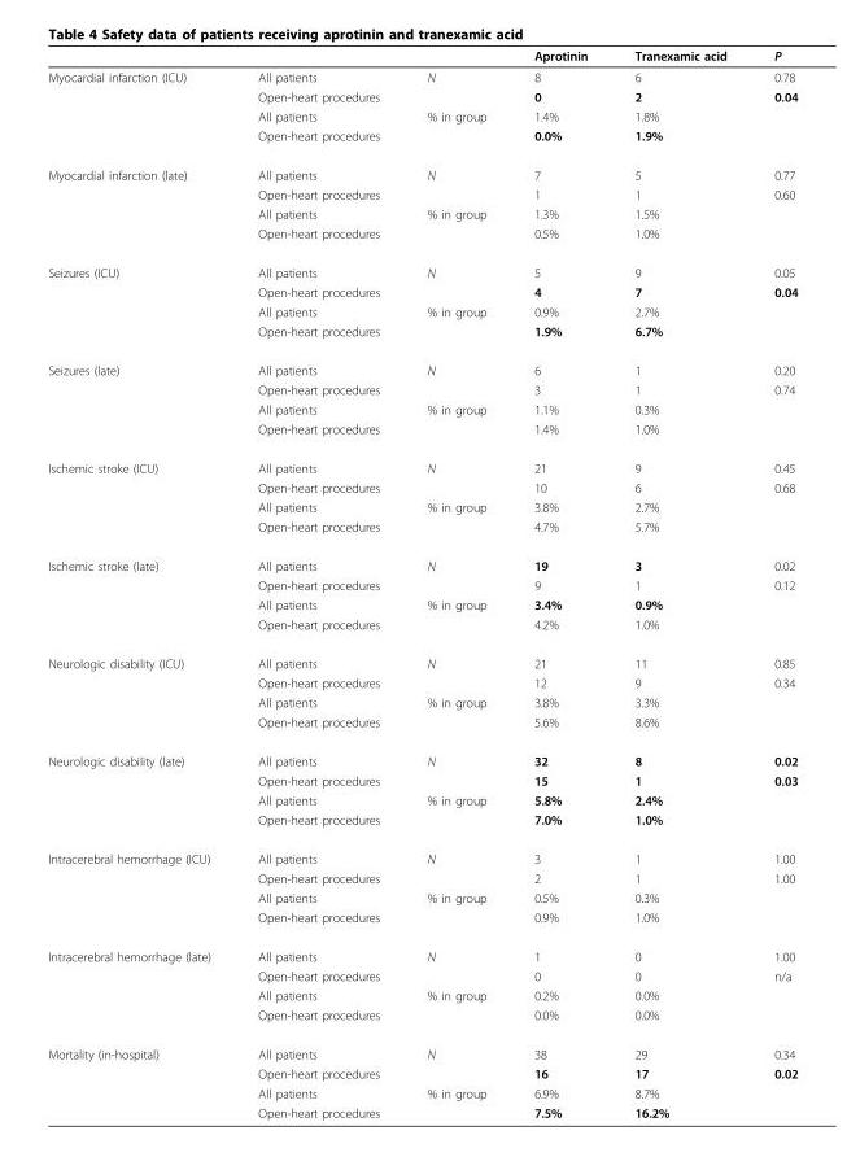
<table><thead><tr><td></td><td></td><td></td><td>Aprotinin</td><td>Tranexamic acid</td><td>P</td></tr></thead><tbody><tr><td rowspan="4">Myocardial infarction (ICU)</td><td>All patients</td><td>N</td><td>8</td><td>6</td><td>0.78</td></tr><tr><td>Open-heart procedures</td><td></td><td>0</td><td>2</td><td>0.04</td></tr><tr><td>All patients</td><td>% in group</td><td>1.4%</td><td>1.8%</td><td></td></tr><tr><td>Open-heart procedures</td><td></td><td>0.0%</td><td>1.9%</td><td></td></tr><tr><td rowspan="4">Myocardial infarction (late)</td><td>All patients</td><td>N</td><td>7</td><td>5</td><td>0.77</td></tr><tr><td>Open-heart procedures</td><td></td><td>1</td><td>1</td><td>0.60</td></tr><tr><td>All patients</td><td>% in group</td><td>1.3%</td><td>1.5%</td><td></td></tr><tr><td>Open-heart procedures</td><td></td><td>0.5%</td><td>1.0%</td><td></td></tr><tr><td rowspan="4">Seizures (ICU)</td><td>All patients</td><td>N</td><td>5</td><td>9</td><td>0.05</td></tr><tr><td>Open-heart procedures</td><td></td><td>4</td><td>7</td><td>0.04</td></tr><tr><td>All patients</td><td>% in group</td><td>0.9%</td><td>2.7%</td><td></td></tr><tr><td>Open-heart procedures</td><td></td><td>1.9%</td><td>6.7%</td><td></td></tr><tr><td rowspan="4">Seizures (late)</td><td>All patients</td><td>N</td><td>6</td><td>1</td><td>0.20</td></tr><tr><td>Open-heart procedures</td><td></td><td>3</td><td>1</td><td>0.74</td></tr><tr><td>All patients</td><td>% in group</td><td>1.1%</td><td>0.3%</td><td></td></tr><tr><td>Open-heart procedures</td><td></td><td>1.4%</td><td>1.0%</td><td></td></tr><tr><td rowspan="4">Ischemic stroke (ICU)</td><td>All patients</td><td>N</td><td>21</td><td>9</td><td>0.45</td></tr><tr><td>Open-heart procedures</td><td></td><td>10</td><td>6</td><td>0.68</td></tr><tr><td>All patients</td><td>% in group</td><td>3.8%</td><td>2.7%</td><td></td></tr><tr><td>Open-heart procedures</td><td></td><td>4.7%</td><td>5.7%</td><td></td></tr><tr><td rowspan="4">Ischemic stroke (late)</td><td>All patients</td><td>N</td><td>19</td><td>3</td><td>0.02</td></tr><tr><td>Open-heart procedures</td><td></td><td>9</td><td>1</td><td>0.12</td></tr><tr><td>All patients</td><td>% in group</td><td>3.4%</td><td>0.9%</td><td></td></tr><tr><td>Open-heart procedures</td><td></td><td>4.2%</td><td>1.0%</td><td></td></tr><tr><td rowspan="4">Neurologic disability (ICU)</td><td>All patients</td><td>N</td><td>21</td><td>11</td><td>0.85</td></tr><tr><td>Open-heart procedures</td><td></td><td>12</td><td>9</td><td>0.34</td></tr><tr><td>All patients</td><td>% in group</td><td>3.8%</td><td>3.3%</td><td></td></tr><tr><td>Open-heart procedures</td><td></td><td>5.6%</td><td>8.6%</td><td></td></tr><tr><td rowspan="4">Neurologic disability (late)</td><td>All patients</td><td>N</td><td>32</td><td>8</td><td>0.02</td></tr><tr><td>Open-heart procedures</td><td></td><td>15</td><td>1</td><td>0.03</td></tr><tr><td>All patients</td><td>% in group</td><td>5.8%</td><td>2.4%</td><td></td></tr><tr><td>Open-heart procedures</td><td></td><td>7.0%</td><td>1.0%</td><td></td></tr><tr><td rowspan="4">Intracerebral hemorrhage (ICU)</td><td>All patients</td><td>N</td><td>3</td><td>1</td><td>1.00</td></tr><tr><td>Open-heart procedures</td><td></td><td>2</td><td>1</td><td>1.00</td></tr><tr><td>All patients</td><td>% in group</td><td>0.5%</td><td>0.3%</td><td></td></tr><tr><td>Open-heart procedures</td><td></td><td>0.9%</td><td>1.0%</td><td></td></tr><tr><td rowspan="4">Intracerebral hemorrhage (late)</td><td>All patients</td><td>N</td><td>1</td><td>0</td><td>1.00</td></tr><tr><td>Open-heart procedures</td><td></td><td>0</td><td>0</td><td>n/a</td></tr><tr><td>All patients</td><td>% in group</td><td>0.2%</td><td>0.0%</td><td></td></tr><tr><td>Open-heart procedures</td><td></td><td>0.0%</td><td>0.0%</td><td></td></tr><tr><td rowspan="4">Mortality (in-hospital)</td><td>All patients</td><td>N</td><td>38</td><td>29</td><td>0.34</td></tr><tr><td>Open-heart procedures</td><td></td><td>16</td><td>17</td><td>0.02</td></tr><tr><td>All patients</td><td>% in group</td><td>6.9%</td><td>8.7%</td><td></td></tr><tr><td>Open-heart procedures</td><td></td><td>7.5%</td><td>16.2%</td><td></td></tr></tbody></table>